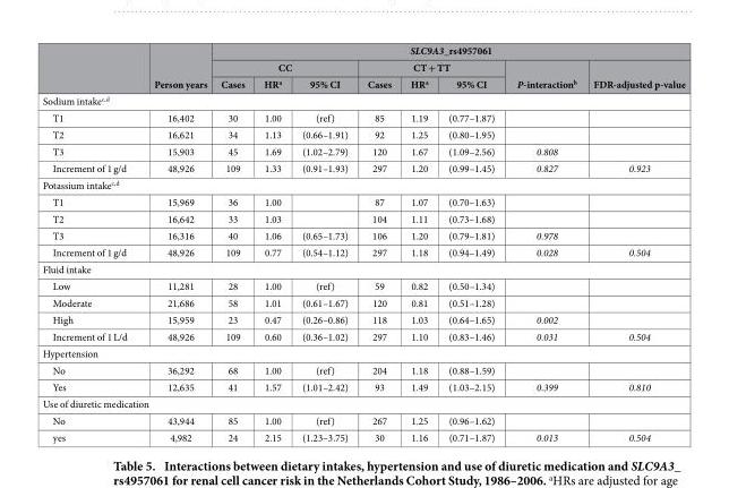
<table><thead><tr><td rowspan="3"></td><td rowspan="3">Person years</td><td colspan="8">SLC9A3_rs4957061</td></tr><tr><td colspan="3">CC</td><td colspan="3">CT + TT</td><td rowspan="2">P-interaction<sup>b</sup></td><td rowspan="2">FDR-adjusted p-value</td></tr><tr><td>Cases</td><td>HR<sup>a</sup></td><td>95% CI</td><td>Cases</td><td>HR<sup>a</sup></td><td>95% CI</td></tr></thead><tbody><tr><td colspan="10">Sodium intake<sup>c</sup>,<sup>d</sup></td></tr><tr><td>T1</td><td>16,402</td><td>30</td><td>1.00</td><td>(ref)</td><td>85</td><td>1.19</td><td>(0.77–1.87)</td><td></td><td></td></tr><tr><td>T2</td><td>16,621</td><td>34</td><td>1.13</td><td>(0.66–1.91)</td><td>92</td><td>1.25</td><td>(0.80–1.95)</td><td></td><td></td></tr><tr><td>T3</td><td>15,903</td><td>45</td><td>1.69</td><td>(1.02–2.79)</td><td>120</td><td>1.67</td><td>(1.09–2.56)</td><td>0.808</td><td></td></tr><tr><td>Increment of 1 g/d</td><td>48,926</td><td>109</td><td>1.33</td><td>(0.91–1.93)</td><td>297</td><td>1.20</td><td>(0.99–1.45)</td><td>0.827</td><td>0.923</td></tr><tr><td colspan="10">Potassium intake<sup>c</sup>,<sup>d</sup></td></tr><tr><td>T1</td><td>15,969</td><td>36</td><td>1.00</td><td></td><td>87</td><td>1.07</td><td>(0.70–1.63)</td><td></td><td></td></tr><tr><td>T2</td><td>16,642</td><td>33</td><td>1.03</td><td></td><td>104</td><td>1.11</td><td>(0.73–1.68)</td><td></td><td></td></tr><tr><td>T3</td><td>16,316</td><td>40</td><td>1.06</td><td>(0.65–1.73)</td><td>106</td><td>1.20</td><td>(0.79–1.81)</td><td>0.978</td><td></td></tr><tr><td>Increment of 1 g/d</td><td>48,926</td><td>109</td><td>0.77</td><td>(0.54–1.12)</td><td>297</td><td>1.18</td><td>(0.94–1.49)</td><td>0.028</td><td>0.504</td></tr><tr><td colspan="10">Fluid intake</td></tr><tr><td>Low</td><td>11,281</td><td>28</td><td>1.00</td><td>(ref)</td><td>59</td><td>0.82</td><td>(0.50–1.34)</td><td></td><td></td></tr><tr><td>Moderate</td><td>21,686</td><td>58</td><td>1.01</td><td>(0.61–1.67)</td><td>120</td><td>0.81</td><td>(0.51–1.28)</td><td></td><td></td></tr><tr><td>High</td><td>15,959</td><td>23</td><td>0.47</td><td>(0.26–0.86)</td><td>118</td><td>1.03</td><td>(0.64–1.65)</td><td>0.002</td><td></td></tr><tr><td>Increment of 1 L/d</td><td>48,926</td><td>109</td><td>0.60</td><td>(0.36–1.02)</td><td>297</td><td>1.10</td><td>(0.83–1.46)</td><td>0.031</td><td>0.504</td></tr><tr><td colspan="10">Hypertension</td></tr><tr><td>No</td><td>36,292</td><td>68</td><td>1.00</td><td>(ref)</td><td>204</td><td>1.18</td><td>(0.88–1.59)</td><td></td><td></td></tr><tr><td>Yes</td><td>12,635</td><td>41</td><td>1.57</td><td>(1.01–2.42)</td><td>93</td><td>1.49</td><td>(1.03–2.15)</td><td>0.399</td><td>0.810</td></tr><tr><td colspan="10">Use of diuretic medication</td></tr><tr><td>No</td><td>43,944</td><td>85</td><td>1.00</td><td>(ref)</td><td>267</td><td>1.25</td><td>(0.96–1.62)</td><td></td><td></td></tr><tr><td>yes</td><td>4,982</td><td>24</td><td>2.15</td><td>(1.23–3.75)</td><td>30</td><td>1.16</td><td>(0.71–1.87)</td><td>0.013</td><td>0.504</td></tr></tbody></table>